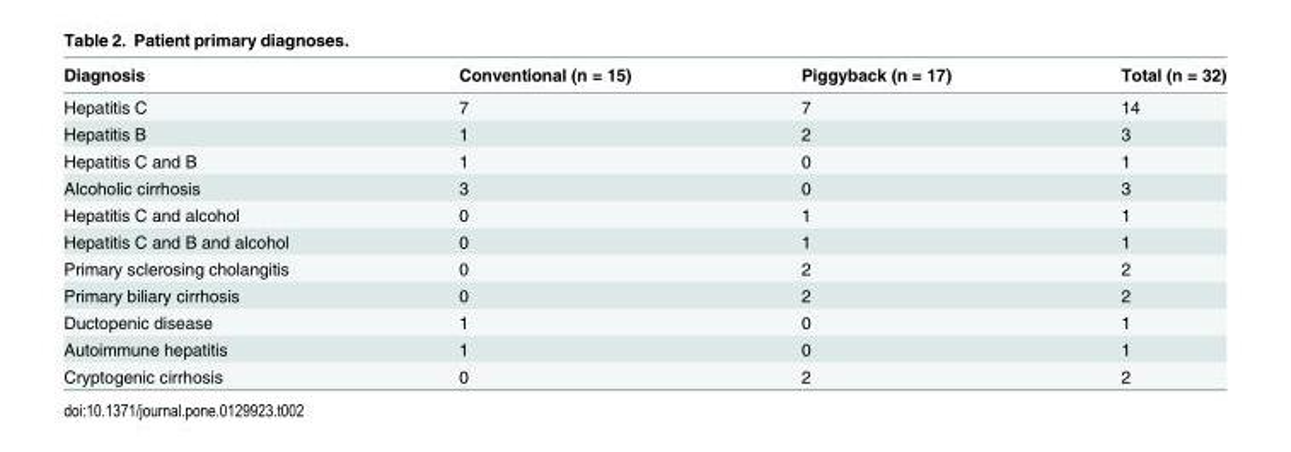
<table><thead><tr><td>Diagnosis</td><td>Conventional (n = 15)</td><td>Piggyback (n = 17)</td><td>Total (n = 32)</td></tr></thead><tbody><tr><td>Hepatitis C</td><td>7</td><td>7</td><td>14</td></tr><tr><td>Hepatitis B</td><td>1</td><td>2</td><td>3</td></tr><tr><td>Hepatitis C and B</td><td>1</td><td>0</td><td>1</td></tr><tr><td>Alcoholic cirrhosis</td><td>3</td><td>0</td><td>3</td></tr><tr><td>Hepatitis C and alcohol</td><td>0</td><td>1</td><td>1</td></tr><tr><td>Hepatitis C and B and alcohol</td><td>0</td><td>1</td><td>1</td></tr><tr><td>Primary sclerosing cholangitis</td><td>0</td><td>2</td><td>2</td></tr><tr><td>Primary biliary cirrhosis</td><td>0</td><td>2</td><td>2</td></tr><tr><td>Ductopenic disease</td><td>1</td><td>0</td><td>1</td></tr><tr><td>Autoimmune hepatitis</td><td>1</td><td>0</td><td>1</td></tr><tr><td>Cryptogenic cirrhosis</td><td>0</td><td>2</td><td>2</td></tr></tbody></table>